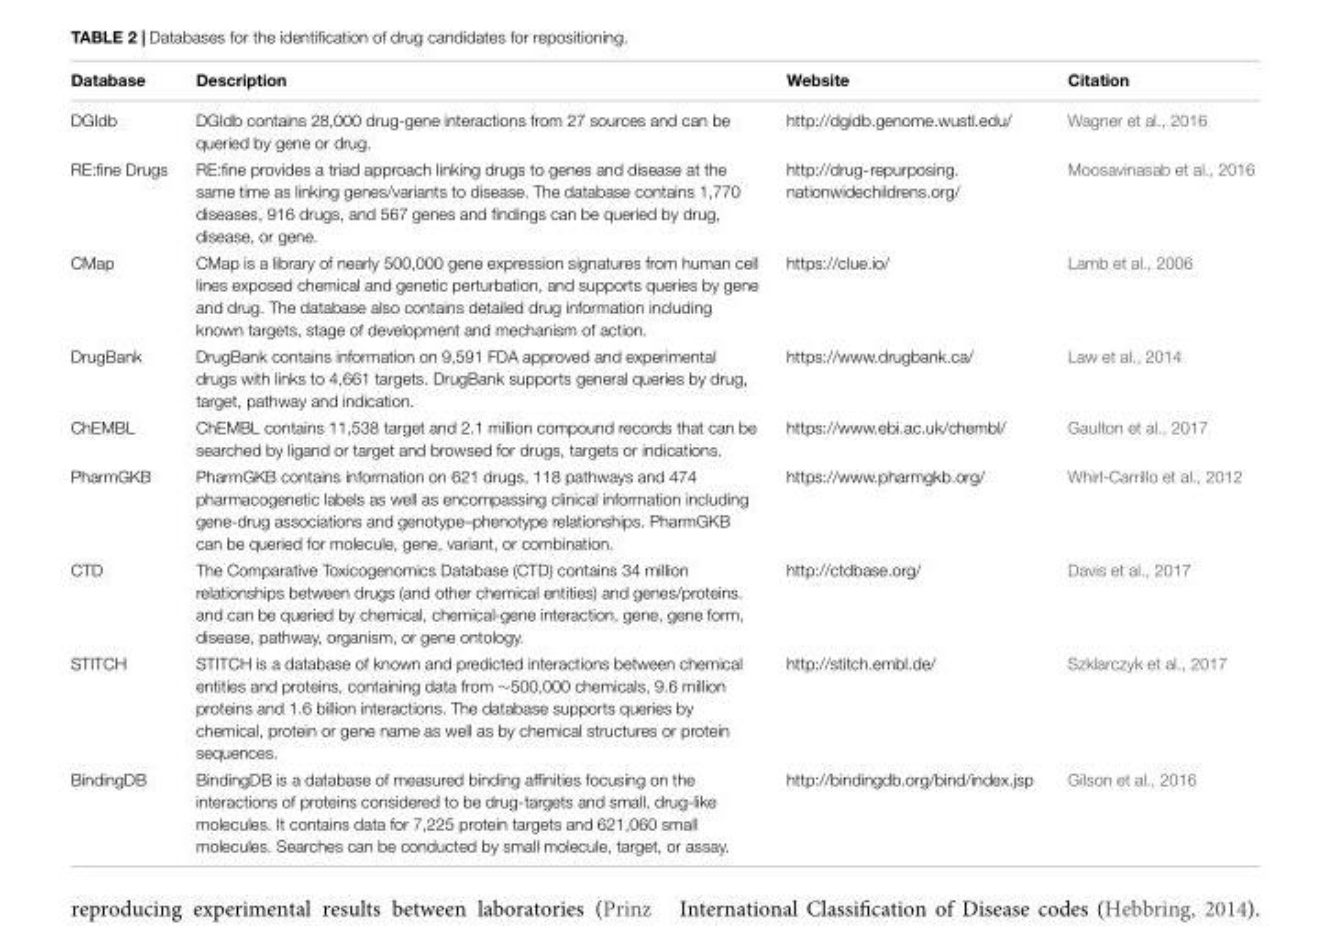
<table><thead><tr><td>Database</td><td>Description</td><td>Website</td><td>Citation</td></tr></thead><tbody><tr><td>DGIdb</td><td>DGIdb contains 28,000 drug-gene interactions from 27 sources and can be queried by gene or drug.</td><td>http://dgidb.genome.wustl.edu/</td><td>Wagner et al., 2016</td></tr><tr><td>RE:fine Drugs</td><td>RE:fine provides a triad approach linking drugs to genes and disease at the same time as linking genes/variants to disease. The database contains 1,770 diseases, 916 drugs, and 567 genes and findings can be queried by drug, disease, or gene.</td><td>http://drug-repurposing. nationwidechildrens.org/</td><td>Moosavinasab et al., 2016</td></tr><tr><td>CMap</td><td>CMap is a library of nearly 500,000 gene expression signatures from human cell lines exposed chemical and genetic perturbation, and supports queries by gene and drug. The database also contains detailed drug information including known targets, stage of development and mechanism of action.</td><td>https://clue.io/</td><td>Lamb et al., 2006</td></tr><tr><td>DrugBank</td><td>DrugBank contains information on 9,591 FDA approved and experimental drugs with links to 4,661 targets. DrugBank supports general queries by drug, target, pathway and indication.</td><td>https://www.drugbank.ca/</td><td>Law et al., 2014</td></tr><tr><td>ChEMBL</td><td>ChEMBL contains 11,538 target and 2.1 million compound records that can be searched by ligand or target and browsed for drugs, targets or indications.</td><td>https://www.ebi.ac.uk/chembl/</td><td>Gaulton et al., 2017</td></tr><tr><td>PharmGKB</td><td>PharmGKB contains information on 621 drugs, 118 pathways and 474 pharmacogenetic labels as well as encompassing clinical information including gene-drug associations and genotype–phenotype relationships. PharmGKB can be queried for molecule, gene, variant, or combination.</td><td>https://www.pharmgkb.org/</td><td>Whirl-Carrillo et al., 2012</td></tr><tr><td>CTD</td><td>The Comparative Toxicogenomics Database (CTD) contains 34 million relationships between drugs (and other chemical entities) and genes/proteins. and can be queried by chemical, chemical-gene interaction, gene, gene form, disease, pathway, organism, or gene ontology.</td><td>http://ctdbase.org/</td><td>Davis et al., 2017</td></tr><tr><td>STITCH</td><td>STITCH is a database of known and predicted interactions between chemical entities and proteins, containing data from ∼500,000 chemicals, 9.6 million proteins and 1.6 billion interactions. The database supports queries by chemical, protein or gene name as well as by chemical structures or protein sequences.</td><td>http://stitch.embl.de/</td><td>Szklarczyk et al., 2017</td></tr><tr><td>BindingDB</td><td>BindingDB is a database of measured binding affinities focusing on the interactions of proteins considered to be drug-targets and small, drug-like molecules. It contains data for 7,225 protein targets and 621,060 small molecules. Searches can be conducted by small molecule, target, or assay.</td><td>http://bindingdb.org/bind/index.jsp</td><td>Gilson et al., 2016</td></tr></tbody></table>